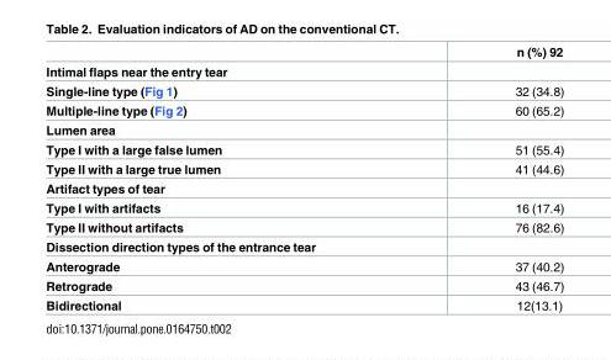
<table><thead><tr><td></td><td>n (%) 92</td></tr></thead><tbody><tr><td colspan="2">Intimal flaps near the entry tear</td></tr><tr><td>Single-line type (Fig 1)</td><td>32 (34.8)</td></tr><tr><td>Multiple-line type (Fig 2)</td><td>60 (65.2)</td></tr><tr><td colspan="2">Lumen area</td></tr><tr><td>Type I with a large false lumen</td><td>51 (55.4)</td></tr><tr><td>Type II with a large true lumen</td><td>41 (44.6)</td></tr><tr><td colspan="2">Artifact types of tear</td></tr><tr><td>Type I with artifacts</td><td>16 (17.4)</td></tr><tr><td>Type II without artifacts</td><td>76 (82.6)</td></tr><tr><td colspan="2">Dissection direction types of the entrance tear</td></tr><tr><td>Anterograde</td><td>37 (40.2)</td></tr><tr><td>Retrograde</td><td>43 (46.7)</td></tr><tr><td>Bidirectional</td><td>12(13.1)</td></tr></tbody></table>